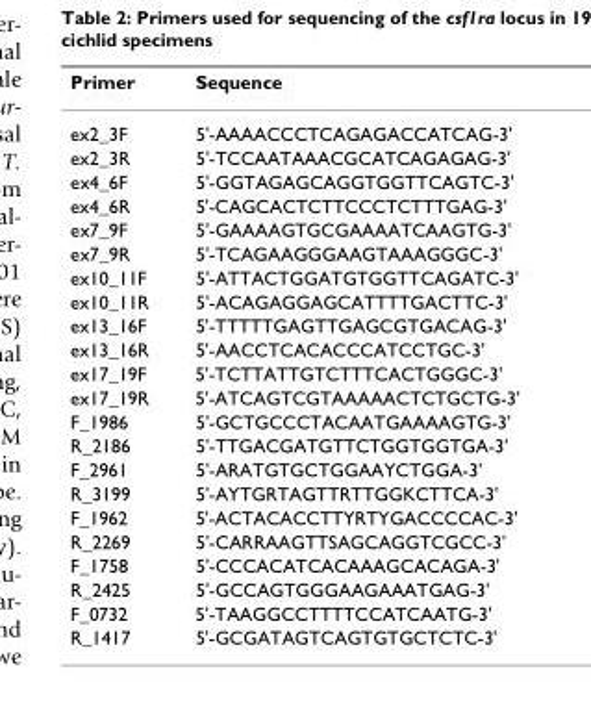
<table><thead><tr><td>Primer</td><td>Sequence</td></tr></thead><tbody><tr><td>ex2_3F</td><td>5&#x27;-AAAACCCTCAGAGACCATCAG-3&#x27;</td></tr><tr><td>ex2_3R</td><td>5&#x27;-TCCAATAAACGCATCAGAGAG-3&#x27;</td></tr><tr><td>ex4_6F</td><td>5&#x27;-GGTAGAGCAGGTGGTTCAGTC-3&#x27;</td></tr><tr><td>ex4_6R</td><td>5&#x27;-CAGCACTCTTCCCTCTTTGAG-3&#x27;</td></tr><tr><td>ex7_9F</td><td>5&#x27;-GAAAAGTGCGAAAATCAAGTG-3&#x27;</td></tr><tr><td>ex7_9R</td><td>5&#x27;-TCAGAAGGGAAGTAAAGGGC-3&#x27;</td></tr><tr><td>ex10_11F</td><td>5&#x27;-ATTACTGGATGTGGTTCAGATC-3&#x27;</td></tr><tr><td>ex10_11R</td><td>5&#x27;-ACAGAGGAGCATTTTGACTTC-3&#x27;</td></tr><tr><td>ex13_16F</td><td>5&#x27;-TTTTTGAGTTGAGCGTGACAG-3&#x27;</td></tr><tr><td>ex13_16R</td><td>5&#x27;-AACCTCACACCCATCCTGC-3&#x27;</td></tr><tr><td>ex17_19F</td><td>5&#x27;-TCTTATTGTCTTTCACTGGGC-3&#x27;</td></tr><tr><td>ex17_19R</td><td>5&#x27;-ATCAGTCGTAAAAACTCTGCTG-3&#x27;</td></tr><tr><td>F_1986</td><td>5&#x27;-GCTGCCCTACAATGAAAAGTG-3&#x27;</td></tr><tr><td>R_2186</td><td>5&#x27;-TTGACGATGTTCTGGTGGTGA-3&#x27;</td></tr><tr><td>F_2961</td><td>5&#x27;-ARATGTGCTGGAAYCTGGA-3&#x27;</td></tr><tr><td>R_3199</td><td>5&#x27;-AYTGRTAGTTRTTGGKCTTCA-3&#x27;</td></tr><tr><td>F_1962</td><td>5&#x27;-ACTACACCTTYRTYGACCCCAC-3&#x27;</td></tr><tr><td>R_2269</td><td>5&#x27;-CARRAAGTTSAGCAGGTCGCC-3&#x27;</td></tr><tr><td>F_1758</td><td>5&#x27;-CCCACATCACAAAGCACAGA-3&#x27;</td></tr><tr><td>R_2425</td><td>5&#x27;-GCCAGTGGGAAGAAATGAG-3&#x27;</td></tr><tr><td>F_0732</td><td>5&#x27;-TAAGGCCTTTTCCATCAATG-3&#x27;</td></tr><tr><td>R_1417</td><td>5&#x27;-GCGATAGTCAGTGTGCTCTC-3&#x27;</td></tr></tbody></table>